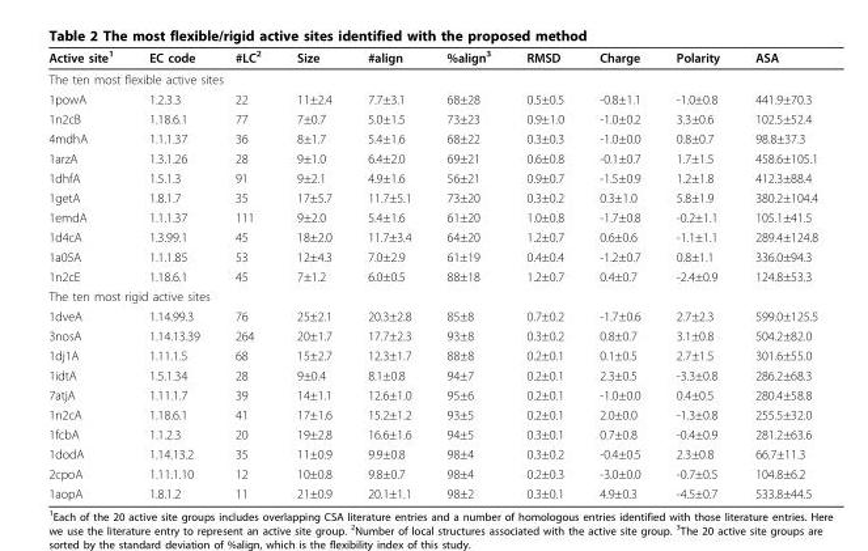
<table><thead><tr><td>Active site<sup>1</sup></td><td>EC code</td><td>#LC<sup>2</sup></td><td>Size</td><td>#align</td><td>%align<sup>3</sup></td><td>RMSD</td><td>Charge</td><td>Polarity</td><td>ASA</td></tr></thead><tbody><tr><td colspan="10">The ten most flexible active sites</td></tr><tr><td>1powA</td><td>1.2.3.3</td><td>22</td><td>11±2.4</td><td>7.7±3.1</td><td>68±28</td><td>0.5±0.5</td><td>-0.8±1.1</td><td>-1.0±0.8</td><td>441.9±70.3</td></tr><tr><td>1n2cB</td><td>1.18.6.1</td><td>77</td><td>7±0.7</td><td>5.0±1.5</td><td>73±23</td><td>0.9±1.0</td><td>-1.0±0.2</td><td>3.3±0.6</td><td>102.5±52.4</td></tr><tr><td>4mdhA</td><td>1.1.1.37</td><td>36</td><td>8±1.7</td><td>5.4±1.6</td><td>68±22</td><td>0.3±0.3</td><td>-1.0±0.0</td><td>0.8±0.7</td><td>98.8±37.3</td></tr><tr><td>1arzA</td><td>1.3.1.26</td><td>28</td><td>9±1.0</td><td>6.4±2.0</td><td>69±21</td><td>0.6±0.8</td><td>-0.1±0.7</td><td>1.7±1.5</td><td>458.6±105.1</td></tr><tr><td>1dhfA</td><td>1.5.1.3</td><td>91</td><td>9±2.1</td><td>4.9±1.6</td><td>56±21</td><td>0.9±0.7</td><td>-1.5±0.9</td><td>1.2±1.8</td><td>412.3±88.4</td></tr><tr><td>1getA</td><td>1.8.1.7</td><td>35</td><td>17±5.7</td><td>11.7±5.1</td><td>73±20</td><td>0.3±0.2</td><td>0.3±1.0</td><td>5.8±1.9</td><td>380.2±104.4</td></tr><tr><td>1emdA</td><td>1.1.1.37</td><td>111</td><td>9±2.0</td><td>5.4±1.6</td><td>61±20</td><td>1.0±0.8</td><td>-1.7±0.8</td><td>-0.2±1.1</td><td>105.1±41.5</td></tr><tr><td>1d4cA</td><td>1.3.99.1</td><td>45</td><td>18±2.0</td><td>11.7±3.4</td><td>64±20</td><td>1.2±0.7</td><td>0.6±0.6</td><td>-1.1±1.1</td><td>289.4±124.8</td></tr><tr><td>1a05A</td><td>1.1.1.85</td><td>53</td><td>12±4.3</td><td>7.0±2.9</td><td>61±19</td><td>0.4±0.4</td><td>-1.2±0.7</td><td>0.8±1.1</td><td>336.0±94.3</td></tr><tr><td>1n2cE</td><td>1.18.6.1</td><td>45</td><td>7±1.2</td><td>6.0±0.5</td><td>88±18</td><td>1.2±0.7</td><td>0.4±0.7</td><td>-2.4±0.9</td><td>124.8±53.3</td></tr><tr><td colspan="10">The ten most rigid active sites</td></tr><tr><td>1dveA</td><td>1.14.99.3</td><td>76</td><td>25±2.1</td><td>20.3±2.8</td><td>85±8</td><td>0.7±0.2</td><td>-1.7±0.6</td><td>2.7±2.3</td><td>599.0±125.5</td></tr><tr><td>3nosA</td><td>1.14.13.39</td><td>264</td><td>20±1.7</td><td>17.7±2.3</td><td>93±8</td><td>0.3±0.2</td><td>0.8±0.7</td><td>3.1±0.8</td><td>504.2±82.0</td></tr><tr><td>1dj1A</td><td>1.11.1.5</td><td>68</td><td>15±2.7</td><td>12.3±1.7</td><td>88±8</td><td>0.2±0.1</td><td>0.1±0.5</td><td>2.7±1.5</td><td>301.6±55.0</td></tr><tr><td>1idtA</td><td>1.5.1.34</td><td>28</td><td>9±0.4</td><td>8.1±0.8</td><td>94±7</td><td>0.2±0.1</td><td>2.3±0.5</td><td>-3.3±0.8</td><td>286.2±68.3</td></tr><tr><td>7atjA</td><td>1.11.1.7</td><td>39</td><td>14±1.1</td><td>12.6±1.0</td><td>95±6</td><td>0.2±0.1</td><td>-1.0±0.0</td><td>0.4±0.5</td><td>280.4±58.8</td></tr><tr><td>1n2cA</td><td>1.18.6.1</td><td>41</td><td>17±1.6</td><td>15.2±1.2</td><td>93±5</td><td>0.2±0.1</td><td>2.0±0.0</td><td>-1.3±0.8</td><td>255.5±32.0</td></tr><tr><td>1fcbA</td><td>1.1.2.3</td><td>20</td><td>19±2.8</td><td>16.6±1.6</td><td>94±5</td><td>0.3±0.1</td><td>0.7±0.8</td><td>-0.4±0.9</td><td>281.2±63.6</td></tr><tr><td>1dodA</td><td>1.14.13.2</td><td>35</td><td>11±0.9</td><td>9.9±0.8</td><td>98±4</td><td>0.3±0.2</td><td>-0.4±0.5</td><td>2.3±0.8</td><td>66.7±11.3</td></tr><tr><td>2cpoA</td><td>1.11.1.10</td><td>12</td><td>10±0.8</td><td>9.8±0.7</td><td>98±4</td><td>0.2±0.3</td><td>-3.0±0.0</td><td>-0.7±0.5</td><td>104.8±6.2</td></tr><tr><td>1aopA</td><td>1.8.1.2</td><td>11</td><td>21±0.9</td><td>20.1±1.1</td><td>98±2</td><td>0.3±0.1</td><td>4.9±0.3</td><td>-4.5±0.7</td><td>533.8±44.5</td></tr></tbody></table>